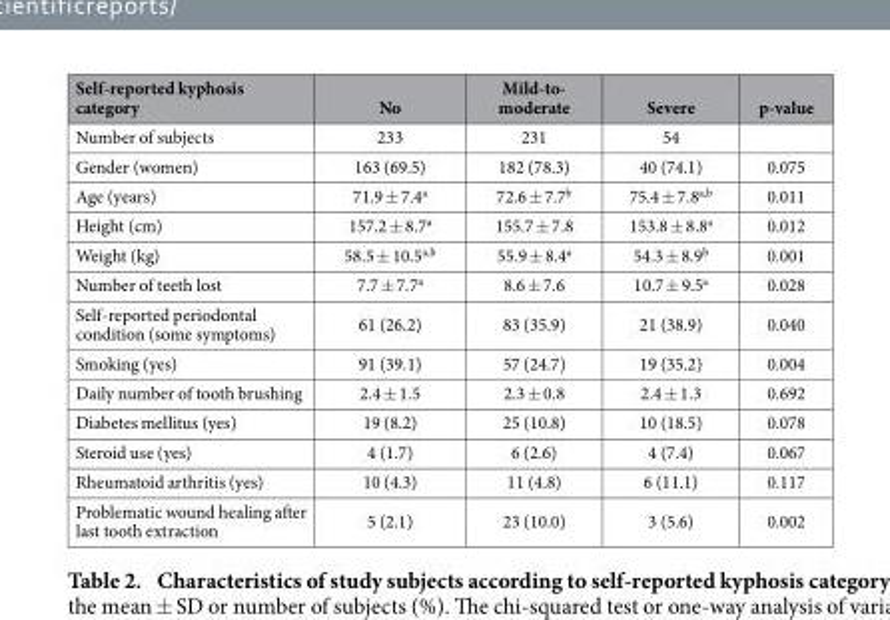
<table><thead><tr><td>Self-reported kyphosis category</td><td>No</td><td>Mild-to- moderate</td><td>Severe</td><td>p-value</td></tr></thead><tbody><tr><td>Number of subjects</td><td>233</td><td>231</td><td>54</td><td></td></tr><tr><td>Gender (women)</td><td>163 (69.5)</td><td>182 (78.3)</td><td>40 (74.1)</td><td>0.075</td></tr><tr><td>Age (years)</td><td>71.9 ± 7.4<sup>a</sup></td><td>72.6 ± 7.7<sup>b</sup></td><td>75.4 ± 7.8<sup>a,b</sup></td><td>0.011</td></tr><tr><td>Height (cm)</td><td>157.2 ± 8.7<sup>a</sup></td><td>155.7 ± 7.8</td><td>153.8 ± 8.8<sup>a</sup></td><td>0.012</td></tr><tr><td>Weight (kg)</td><td>58.5 ± 10.5<sup>a,b</sup></td><td>55.9 ± 8.4<sup>a</sup></td><td>54.3 ± 8.9<sup>b</sup></td><td>0.001</td></tr><tr><td>Number of teeth lost</td><td>7.7 ± 7.7<sup>a</sup></td><td>8.6 ± 7.6</td><td>10.7 ± 9.5<sup>a</sup></td><td>0.028</td></tr><tr><td>Self-reported periodontal condition (some symptoms)</td><td>61 (26.2)</td><td>83 (35.9)</td><td>21 (38.9)</td><td>0.040</td></tr><tr><td>Smoking (yes)</td><td>91 (39.1)</td><td>57 (24.7)</td><td>19 (35.2)</td><td>0.004</td></tr><tr><td>Daily number of tooth brushing</td><td>2.4 ± 1.5</td><td>2.3 ± 0.8</td><td>2.4 ± 1.3</td><td>0.692</td></tr><tr><td>Diabetes mellitus (yes)</td><td>19 (8.2)</td><td>25 (10.8)</td><td>10 (18.5)</td><td>0.078</td></tr><tr><td>Steroid use (yes)</td><td>4 (1.7)</td><td>6 (2.6)</td><td>4 (7.4)</td><td>0.067</td></tr><tr><td>Rheumatoid arthritis (yes)</td><td>10 (4.3)</td><td>11 (4.8)</td><td>6 (11.1)</td><td>0.117</td></tr><tr><td>Problematic wound healing after last tooth extraction</td><td>5 (2.1)</td><td>23 (10.0)</td><td>3 (5.6)</td><td>0.002</td></tr></tbody></table>